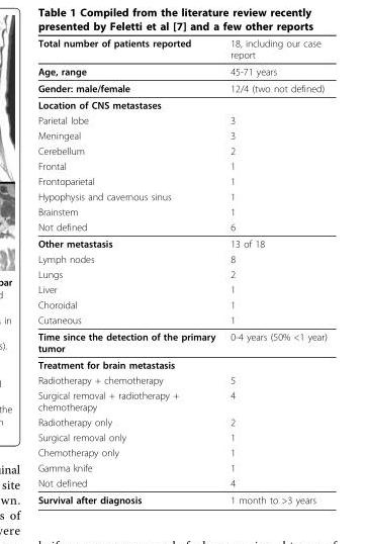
<table><thead><tr><td>Total number of patients reported</td><td>18, including our case report</td></tr></thead><tbody><tr><td>Age, range</td><td>45-71 years</td></tr><tr><td>Gender: male/female</td><td>12/4 (two not defined)</td></tr><tr><td colspan="2">Location of CNS metastases</td></tr><tr><td>Parietal lobe</td><td>3</td></tr><tr><td>Meningeal</td><td>3</td></tr><tr><td>Cerebellum</td><td>2</td></tr><tr><td>Frontal</td><td>1</td></tr><tr><td>Frontoparietal</td><td>1</td></tr><tr><td>Hypophysis and cavernous sinus</td><td>1</td></tr><tr><td>Brainstem</td><td>1</td></tr><tr><td>Not defined</td><td>6</td></tr><tr><td>Other metastasis</td><td>13 of 18</td></tr><tr><td>Lymph nodes</td><td>8</td></tr><tr><td>Lungs</td><td>2</td></tr><tr><td>Liver</td><td>1</td></tr><tr><td>Choroidal</td><td>1</td></tr><tr><td>Cutaneous</td><td>1</td></tr><tr><td>Time since the detection of the primary tumor</td><td>0-4 years (50% &lt;1 year)</td></tr><tr><td colspan="2">Treatment for brain metastasis</td></tr><tr><td>Radiotherapy + chemotherapy</td><td>5</td></tr><tr><td>Surgical removal + radiotherapy + chemotherapy</td><td>4</td></tr><tr><td>Radiotherapy only</td><td>2</td></tr><tr><td>Surgical removal only</td><td>1</td></tr><tr><td>Chemotherapy only</td><td>1</td></tr><tr><td>Gamma knife</td><td>1</td></tr><tr><td>Not defined</td><td>4</td></tr><tr><td>Survival after diagnosis</td><td>1 month to &gt;3 years</td></tr></tbody></table>